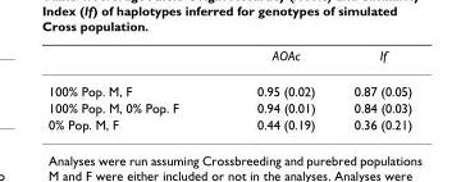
<table><thead><tr><td></td><td>AOAc</td><td>If</td></tr></thead><tbody><tr><td>100% Pop. M, F</td><td>0.95 (0.02)</td><td>0.87 (0.05)</td></tr><tr><td>100% Pop. M, 0% Pop. F</td><td>0.94 (0.01)</td><td>0.84 (0.03)</td></tr><tr><td>0% Pop. M, F</td><td>0.44 (0.19)</td><td>0.36 (0.21)</td></tr></tbody></table>